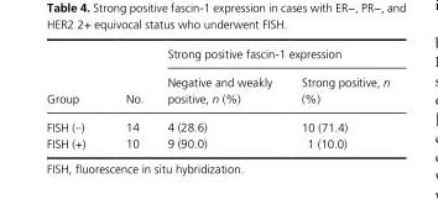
<table><thead><tr><td rowspan="2">Group</td><td rowspan="2">No.</td><td colspan="2">Strong positive fascin- 1 expression</td></tr><tr><td>Negative and weakly positive, n (%)</td><td>Strong positive, n (%)</td></tr></thead><tbody><tr><td>FISH (_)</td><td>14</td><td>4 (28.6)</td><td>10 (71.4)</td></tr><tr><td>FISH (+)</td><td>10</td><td>9 (90.0)</td><td>1 (10.0)</td></tr></tbody></table>